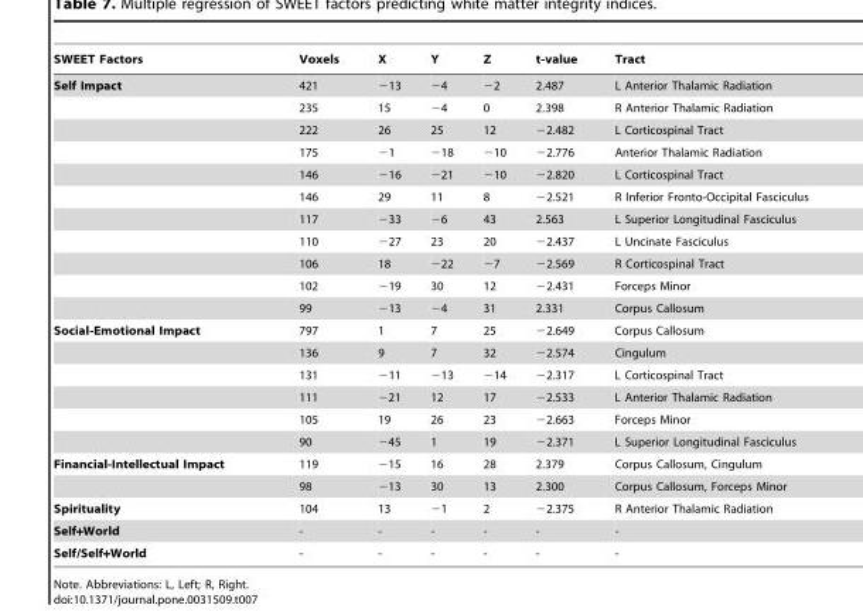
<table><thead><tr><td>SWEET Factors</td><td>Voxels</td><td>X</td><td>Y</td><td>Z</td><td>t-value</td><td>Tract</td></tr></thead><tbody><tr><td rowspan="11">Self Impact</td><td>421</td><td>−13</td><td>−4</td><td>−2</td><td>2.487</td><td>L Anterior Thalamic Radiation</td></tr><tr><td>235</td><td>15</td><td>−4</td><td>0</td><td>2.398</td><td>R Anterior Thalamic Radiation</td></tr><tr><td>222</td><td>26</td><td>25</td><td>12</td><td>−2.482</td><td>L Corticospinal Tract</td></tr><tr><td>175</td><td>−1</td><td>−18</td><td>−10</td><td>−2.776</td><td>Anterior Thalamic Radiation</td></tr><tr><td>146</td><td>−16</td><td>−21</td><td>−10</td><td>−2.820</td><td>L Corticospinal Tract</td></tr><tr><td>146</td><td>29</td><td>11</td><td>8</td><td>−2.521</td><td>R Inferior Fronto-Occipital Fasciculus</td></tr><tr><td>117</td><td>−33</td><td>−6</td><td>43</td><td>2.563</td><td>L Superior Longitudinal Fasciculus</td></tr><tr><td>110</td><td>−27</td><td>23</td><td>20</td><td>−2.437</td><td>L Uncinate Fasciculus</td></tr><tr><td>106</td><td>18</td><td>−22</td><td>−7</td><td>−2.569</td><td>R Corticospinal Tract</td></tr><tr><td>102</td><td>−19</td><td>30</td><td>12</td><td>−2.431</td><td>Forceps Minor</td></tr><tr><td>99</td><td>−13</td><td>−4</td><td>31</td><td>2.331</td><td>Corpus Callosum</td></tr><tr><td rowspan="6">Social-Emotional Impact</td><td>797</td><td>1</td><td>7</td><td>25</td><td>−2.649</td><td>Corpus Callosum</td></tr><tr><td>136</td><td>9</td><td>7</td><td>32</td><td>−2.574</td><td>Cingulum</td></tr><tr><td>131</td><td>−11</td><td>−13</td><td>−14</td><td>−2.317</td><td>L Corticospinal Tract</td></tr><tr><td>111</td><td>−21</td><td>12</td><td>17</td><td>−2.533</td><td>L Anterior Thalamic Radiation</td></tr><tr><td>105</td><td>19</td><td>26</td><td>23</td><td>−2.663</td><td>Forceps Minor</td></tr><tr><td>90</td><td>−45</td><td>1</td><td>19</td><td>−2.371</td><td>L Superior Longitudinal Fasciculus</td></tr><tr><td rowspan="2">Financial-Intellectual Impact</td><td>119</td><td>−15</td><td>16</td><td>28</td><td>2.379</td><td>Corpus Callosum, Cingulum</td></tr><tr><td>98</td><td>−13</td><td>30</td><td>13</td><td>2.300</td><td>Corpus Callosum, Forceps Minor</td></tr><tr><td>Spirituality</td><td>104</td><td>13</td><td>−1</td><td>2</td><td>−2.375</td><td>R Anterior Thalamic Radiation</td></tr><tr><td>Self+World</td><td>-</td><td>-</td><td>-</td><td>-</td><td>-</td><td>-</td></tr><tr><td>Self/Self+World</td><td>-</td><td>-</td><td>-</td><td>-</td><td>-</td><td>-</td></tr></tbody></table>